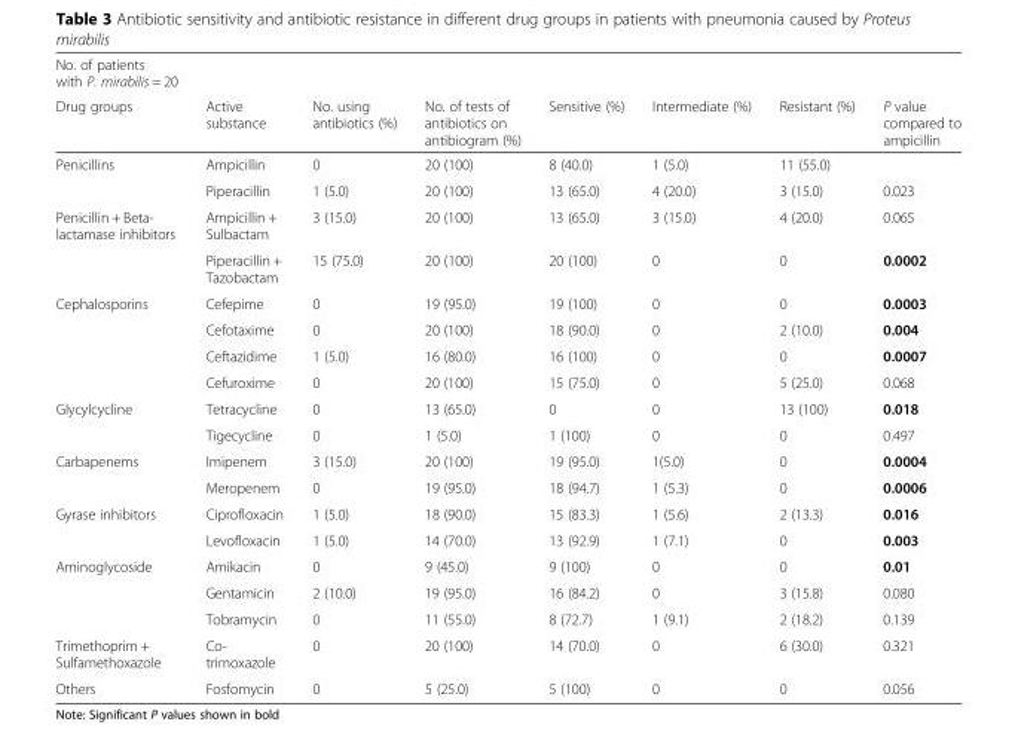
<table><thead><tr><td rowspan="2">No. of patients with P. mirabilis = 20 Drug groups</td><td rowspan="2">Active substance</td><td rowspan="2">No. using antibiotics (%)</td><td rowspan="2">No. of tests of antibiotics on antibiogram (%)</td><td rowspan="2">Sensitive (%)</td><td rowspan="2">Intermediate (%)</td><td rowspan="2">Resistant (%)</td><td rowspan="2">P value compared to ampicillin</td></tr><tr></tr></thead><tbody><tr><td rowspan="2">Penicillins</td><td>Ampicillin</td><td>0</td><td>20 (100)</td><td>8 (40.0)</td><td>1 (5.0)</td><td>11 (55.0)</td><td></td></tr><tr><td>Piperacillin</td><td>1 (5.0)</td><td>20 (100)</td><td>13 (65.0)</td><td>4 (20.0)</td><td>3 (15.0)</td><td>0.023</td></tr><tr><td rowspan="2">Penicillin + Beta- lactamase inhibitors</td><td>Ampicillin + Sulbactam</td><td>3 (15.0)</td><td>20 (100)</td><td>13 (65.0)</td><td>3 (15.0)</td><td>4 (20.0)</td><td>0.065</td></tr><tr><td>Piperacillin + Tazobactam</td><td>15 (75.0)</td><td>20 (100)</td><td>20 (100)</td><td>0</td><td>0</td><td>0.0002</td></tr><tr><td rowspan="4">Cephalosporins</td><td>Cefepime</td><td>0</td><td>19 (95.0)</td><td>19 (100)</td><td>0</td><td>0</td><td>0.0003</td></tr><tr><td>Cefotaxime</td><td>0</td><td>20 (100)</td><td>18 (90.0)</td><td>0</td><td>2 (10.0)</td><td>0.004</td></tr><tr><td>Ceftazidime</td><td>1 (5.0)</td><td>16 (80.0)</td><td>16 (100)</td><td>0</td><td>0</td><td>0.0007</td></tr><tr><td>Cefuroxime</td><td>0</td><td>20 (100)</td><td>15 (75.0)</td><td>0</td><td>5 (25.0)</td><td>0.068</td></tr><tr><td rowspan="2">Glycylcycline</td><td>Tetracycline</td><td>0</td><td>13 (65.0)</td><td>0</td><td>0</td><td>13 (100)</td><td>0.018</td></tr><tr><td>Tigecycline</td><td>0</td><td>1 (5.0)</td><td>1 (100)</td><td>0</td><td>0</td><td>0.497</td></tr><tr><td rowspan="2">Carbapenems</td><td>Imipenem</td><td>3 (15.0)</td><td>20 (100)</td><td>19 (95.0)</td><td>1(5.0)</td><td>0</td><td>0.0004</td></tr><tr><td>Meropenem</td><td>0</td><td>19 (95.0)</td><td>18 (94.7)</td><td>1 (5.3)</td><td>0</td><td>0.0006</td></tr><tr><td rowspan="2">Gyrase inhibitors</td><td>Ciprofloxacin</td><td>1 (5.0)</td><td>18 (90.0)</td><td>15 (83.3)</td><td>1 (5.6)</td><td>2 (13.3)</td><td>0.016</td></tr><tr><td>Levofloxacin</td><td>1 (5.0)</td><td>14 (70.0)</td><td>13 (92.9)</td><td>1 (7.1)</td><td>0</td><td>0.003</td></tr><tr><td rowspan="3">Aminoglycoside</td><td>Amikacin</td><td>0</td><td>9 (45.0)</td><td>9 (100)</td><td>0</td><td>0</td><td>0.01</td></tr><tr><td>Gentamicin</td><td>2 (10.0)</td><td>19 (95.0)</td><td>16 (84.2)</td><td>0</td><td>3 (15.8)</td><td>0.080</td></tr><tr><td>Tobramycin</td><td>0</td><td>11 (55.0)</td><td>8 (72.7)</td><td>1 (9.1)</td><td>2 (18.2)</td><td>0.139</td></tr><tr><td>Trimethoprim + Sulfamethoxazole</td><td>Co- trimoxazole</td><td>0</td><td>20 (100)</td><td>14 (70.0)</td><td>0</td><td>6 (30.0)</td><td>0.321</td></tr><tr><td>Others</td><td>Fosfomycin</td><td>0</td><td>5 (25.0)</td><td>5 (100)</td><td>0</td><td>0</td><td>0.056</td></tr></tbody></table>